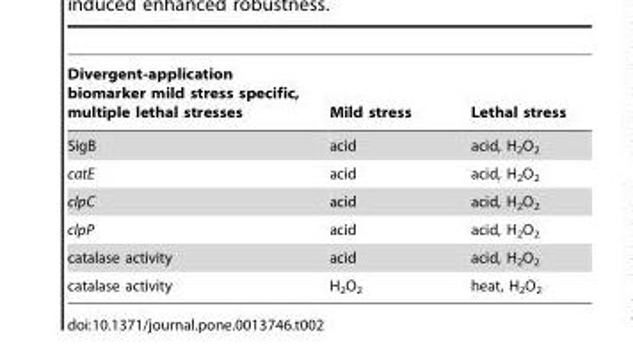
<table><thead><tr><td>Divergent-application biomarker mild stress specific, multiple lethal stresses</td><td>Mild stress</td><td>Lethal stress</td></tr></thead><tbody><tr><td>SigB</td><td>acid</td><td>acid, H<sub>2</sub>O<sub>2</sub></td></tr><tr><td>catE</td><td>acid</td><td>acid, H<sub>2</sub>O<sub>2</sub></td></tr><tr><td>clpC</td><td>acid</td><td>acid, H<sub>2</sub>O<sub>2</sub></td></tr><tr><td>clpP</td><td>acid</td><td>acid, H<sub>2</sub>O<sub>2</sub></td></tr><tr><td>catalase activity</td><td>acid</td><td>acid, H<sub>2</sub>O<sub>2</sub></td></tr><tr><td>catalase activity</td><td>H<sub>2</sub>O<sub>2</sub></td><td>heat, H<sub>2</sub>O<sub>2</sub></td></tr></tbody></table>